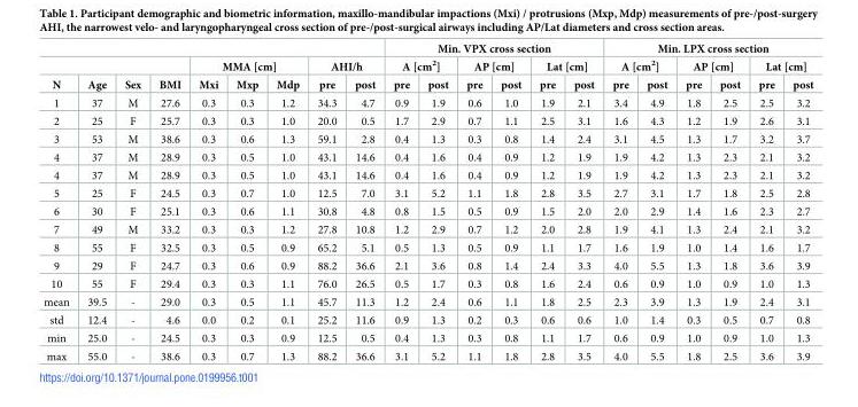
<table><thead><tr><td rowspan="3">N</td><td rowspan="3">Age</td><td rowspan="3">Sex</td><td rowspan="3">BMI</td><td></td><td></td><td></td><td></td><td></td><td colspan="6">Min. VPX cross section</td><td colspan="6">Min. LPX cross section</td></tr><tr><td colspan="3">MMA [cm]</td><td colspan="2">AHI/h</td><td colspan="2">A [cm<sup>2</sup>]</td><td colspan="2">AP [cm]</td><td colspan="2">Lat [cm]</td><td colspan="2">A [cm<sup>2</sup>]</td><td colspan="2">AP [cm]</td><td colspan="2">Lat [cm]</td></tr><tr><td>Mxi</td><td>Mxp</td><td>Mdp</td><td>pre</td><td>post</td><td>pre</td><td>post</td><td>pre</td><td>post</td><td>pre</td><td>post</td><td>pre</td><td>post</td><td>pre</td><td>post</td><td>pre</td><td>post</td></tr></thead><tbody><tr><td>1</td><td>37</td><td>M</td><td>27.6</td><td>0.3</td><td>0.3</td><td>1.2</td><td>34.3</td><td>4.7</td><td>0.9</td><td>1.9</td><td>0.6</td><td>1.0</td><td>1.9</td><td>2.1</td><td>3.4</td><td>4.9</td><td>1.8</td><td>2.5</td><td>2.5</td><td>3.2</td></tr><tr><td>2</td><td>25</td><td>F</td><td>25.7</td><td>0.3</td><td>0.3</td><td>1.0</td><td>20.0</td><td>0.5</td><td>1.7</td><td>2.9</td><td>0.7</td><td>1.1</td><td>2.5</td><td>3.1</td><td>1.6</td><td>4.3</td><td>1.2</td><td>1.9</td><td>2.6</td><td>3.1</td></tr><tr><td>3</td><td>53</td><td>M</td><td>38.6</td><td>0.3</td><td>0.6</td><td>1.3</td><td>59.1</td><td>2.8</td><td>0.4</td><td>1.3</td><td>0.3</td><td>0.8</td><td>1.4</td><td>2.4</td><td>3.1</td><td>4.5</td><td>1.3</td><td>1.7</td><td>3.2</td><td>3.7</td></tr><tr><td>4</td><td>37</td><td>M</td><td>28.9</td><td>0.3</td><td>0.5</td><td>1.0</td><td>43.1</td><td>14.6</td><td>0.4</td><td>1.6</td><td>0.4</td><td>0.9</td><td>1.2</td><td>1.9</td><td>1.9</td><td>4.2</td><td>1.3</td><td>2.3</td><td>2.1</td><td>3.2</td></tr><tr><td>4</td><td>37</td><td>M</td><td>28.9</td><td>0.3</td><td>0.5</td><td>1.0</td><td>43.1</td><td>14.6</td><td>0.4</td><td>1.6</td><td>0.4</td><td>0.9</td><td>1.2</td><td>1.9</td><td>1.9</td><td>4.2</td><td>1.3</td><td>2.3</td><td>2.1</td><td>3.2</td></tr><tr><td>5</td><td>25</td><td>F</td><td>24.5</td><td>0.3</td><td>0.7</td><td>1.0</td><td>12.5</td><td>7.0</td><td>3.1</td><td>5.2</td><td>1.1</td><td>1.8</td><td>2.8</td><td>3.5</td><td>2.7</td><td>3.1</td><td>1.7</td><td>1.8</td><td>2.5</td><td>2.8</td></tr><tr><td>6</td><td>30</td><td>F</td><td>25.1</td><td>0.3</td><td>0.6</td><td>1.1</td><td>30.8</td><td>4.8</td><td>0.8</td><td>1.5</td><td>0.5</td><td>0.9</td><td>1.5</td><td>2.0</td><td>2.0</td><td>2.9</td><td>1.4</td><td>1.6</td><td>2.3</td><td>2.7</td></tr><tr><td>7</td><td>49</td><td>M</td><td>33.2</td><td>0.3</td><td>0.3</td><td>1.2</td><td>27.8</td><td>10.8</td><td>1.2</td><td>2.9</td><td>0.7</td><td>1.2</td><td>2.0</td><td>2.8</td><td>1.9</td><td>4.1</td><td>1.3</td><td>2.4</td><td>2.1</td><td>3.2</td></tr><tr><td>8</td><td>55</td><td>F</td><td>32.5</td><td>0.3</td><td>0.5</td><td>0.9</td><td>65.2</td><td>5.1</td><td>0.5</td><td>1.3</td><td>0.5</td><td>0.9</td><td>1.1</td><td>1.7</td><td>1.6</td><td>1.9</td><td>1.0</td><td>1.4</td><td>1.6</td><td>1.7</td></tr><tr><td>9</td><td>29</td><td>F</td><td>24.7</td><td>0.3</td><td>0.6</td><td>0.9</td><td>88.2</td><td>36.6</td><td>2.1</td><td>3.6</td><td>0.8</td><td>1.4</td><td>2.4</td><td>3.3</td><td>4.0</td><td>5.5</td><td>1.3</td><td>1.8</td><td>3.6</td><td>3.9</td></tr><tr><td>10</td><td>55</td><td>F</td><td>29.4</td><td>0.3</td><td>0.3</td><td>1.1</td><td>76.0</td><td>26.5</td><td>0.5</td><td>1.7</td><td>0.3</td><td>0.8</td><td>1.6</td><td>2.4</td><td>0.6</td><td>0.9</td><td>1.0</td><td>0.9</td><td>1.0</td><td>1.3</td></tr><tr><td>mean</td><td>39.5</td><td>-</td><td>29.0</td><td>0.3</td><td>0.5</td><td>1.1</td><td>45.7</td><td>11.3</td><td>1.2</td><td>2.4</td><td>0.6</td><td>1.1</td><td>1.8</td><td>2.5</td><td>2.3</td><td>3.9</td><td>1.3</td><td>1.9</td><td>2.4</td><td>3.1</td></tr><tr><td>std</td><td>12.4</td><td>-</td><td>4.6</td><td>0.0</td><td>0.2</td><td>0.1</td><td>25.2</td><td>11.6</td><td>0.9</td><td>1.3</td><td>0.2</td><td>0.3</td><td>0.6</td><td>0.6</td><td>1.0</td><td>1.4</td><td>0.3</td><td>0.5</td><td>0.7</td><td>0.8</td></tr><tr><td>min</td><td>25.0</td><td>-</td><td>24.5</td><td>0.3</td><td>0.3</td><td>0.9</td><td>12.5</td><td>0.5</td><td>0.4</td><td>1.3</td><td>0.3</td><td>0.8</td><td>1.1</td><td>1.7</td><td>0.6</td><td>0.9</td><td>1.0</td><td>0.9</td><td>1.0</td><td>1.3</td></tr><tr><td>max</td><td>55.0</td><td>-</td><td>38.6</td><td>0.3</td><td>0.7</td><td>1.3</td><td>88.2</td><td>36.6</td><td>3.1</td><td>5.2</td><td>1.1</td><td>1.8</td><td>2.8</td><td>3.5</td><td>4.0</td><td>5.5</td><td>1.8</td><td>2.5</td><td>3.6</td><td>3.9</td></tr></tbody></table>